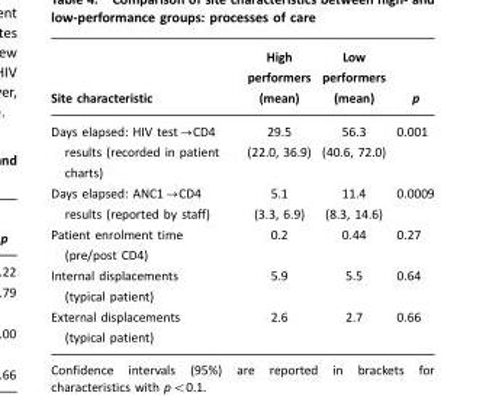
<table><thead><tr><td>Site characteristic</td><td>High performers (mean)</td><td>Low performers (mean)</td><td>p</td></tr></thead><tbody><tr><td>Days elapsed: HIV test→CD4 results (recorded in patient charts)</td><td>29.5 (22.0, 36.9)</td><td>56.3 (40.6, 72.0)</td><td>0.001</td></tr><tr><td>Days elapsed: ANC1→CD4 results (reported by staff)</td><td>5.1 (3.3, 6.9)</td><td>11.4 (8.3, 14.6)</td><td>0.0009</td></tr><tr><td>Patient enrolment time (pre/post CD4)</td><td>0.2</td><td>0.44</td><td>0.27</td></tr><tr><td>Internal displacements (typical patient)</td><td>5.9</td><td>5.5</td><td>0.64</td></tr><tr><td>External displacements (typical patient)</td><td>2.6</td><td>2.7</td><td>0.66</td></tr></tbody></table>